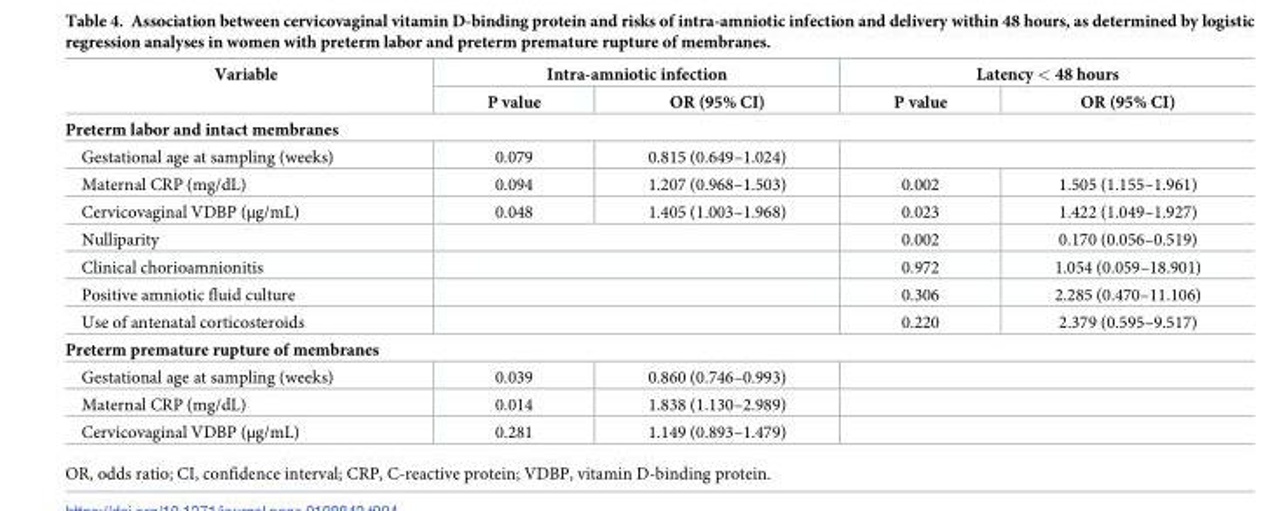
<table><thead><tr><td rowspan="2">Variable</td><td colspan="2">Intra-amniotic infection</td><td colspan="2">Latency &lt; 48 hours</td></tr><tr><td>P value</td><td>OR (95% CI)</td><td>P value</td><td>OR (95% CI)</td></tr></thead><tbody><tr><td colspan="5">Preterm labor and intact membranes</td></tr><tr><td>Gestational age at sampling (weeks)</td><td>0.079</td><td>0.815 (0.649–1.024)</td><td colspan="2"></td></tr><tr><td>Maternal CRP (mg/dL)</td><td>0.094</td><td>1.207 (0.968–1.503)</td><td>0.002</td><td>1.505 (1.155–1.961)</td></tr><tr><td>Cervicovaginal VDBP (μg/mL)</td><td>0.048</td><td>1.405 (1.003–1.968)</td><td>0.023</td><td>1.422 (1.049–1.927)</td></tr><tr><td>Nulliparity</td><td colspan="2"></td><td>0.002</td><td>0.170 (0.056–0.519)</td></tr><tr><td>Clinical chorioamnionitis</td><td colspan="2"></td><td>0.972</td><td>1.054 (0.059–18.901)</td></tr><tr><td>Positive amniotic fluid culture</td><td colspan="2"></td><td>0.306</td><td>2.285 (0.470–11.106)</td></tr><tr><td>Use of antenatal corticosteroids</td><td colspan="2"></td><td>0.220</td><td>2.379 (0.595–9.517)</td></tr><tr><td colspan="5">Preterm premature rupture of membranes</td></tr><tr><td>Gestational age at sampling (weeks)</td><td>0.039</td><td>0.860 (0.746–0.993)</td><td colspan="2"></td></tr><tr><td>Maternal CRP (mg/dL)</td><td>0.014</td><td>1.838 (1.130–2.989)</td><td colspan="2"></td></tr><tr><td>Cervicovaginal VDBP (μg/mL)</td><td>0.281</td><td>1.149 (0.893–1.479)</td><td colspan="2"></td></tr></tbody></table>